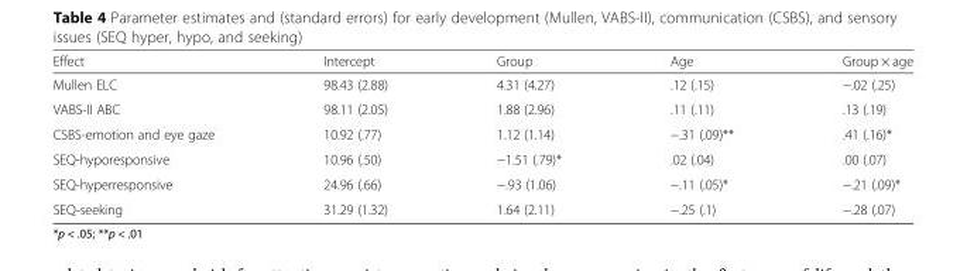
<table><thead><tr><td>Effect</td><td>Intercept</td><td>Group</td><td>Age</td><td>Group × age</td></tr></thead><tbody><tr><td>Mullen ELC</td><td>98.43 (2.88)</td><td>4.31 (4.27)</td><td>.12 (.15)</td><td>−.02 (.25)</td></tr><tr><td>VABS-II ABC</td><td>98.11 (2.05)</td><td>1.88 (2.96)</td><td>.11 (.11)</td><td>.13 (.19)</td></tr><tr><td>CSBS-emotion and eye gaze</td><td>10.92 (.77)</td><td>1.12 (1.14)</td><td>−.31 (.09)**</td><td>.41 (.16)*</td></tr><tr><td>SEQ-hyporesponsive</td><td>10.96 (.50)</td><td>−1.51 (.79)*</td><td>.02 (.04)</td><td>.00 (.07)</td></tr><tr><td>SEQ-hyperresponsive</td><td>24.96 (.66)</td><td>−.93 (1.06)</td><td>−.11 (.05)*</td><td>−.21 (.09)*</td></tr><tr><td>SEQ-seeking</td><td>31.29 (1.32)</td><td>1.64 (2.11)</td><td>−.25 (.1)</td><td>−.28 (.07)</td></tr></tbody></table>